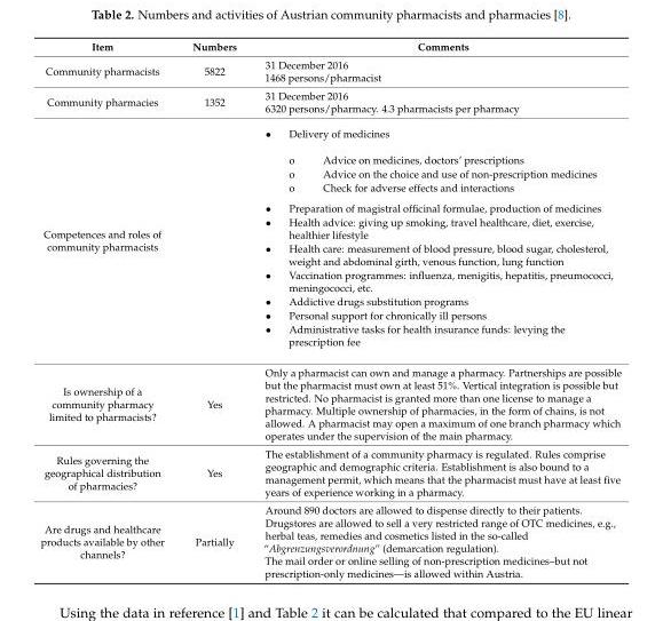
<table><thead><tr><td>Item</td><td>Numbers</td><td>Comments</td></tr></thead><tbody><tr><td>Community pharmacists</td><td>5822</td><td>31 December 2016 1468 persons/pharmacist</td></tr><tr><td>Community pharmacies</td><td>1352</td><td>31 December 2016 6320 persons/pharmacy. 4.3 pharmacists per pharmacy</td></tr><tr><td>Competences and roles of community pharmacists</td><td></td><td>• Delivery of medicines o Advice on medicines, doctors’ prescriptions o Advice on the choice and use of non-prescription medicines o Check for adverse effects and interactions • Preparation of magistral officinal formulae, production of medicines • Health advice: giving up smoking, travel healthcare, diet, exercise, healthier lifestyle • Health care: measurement of blood pressure, blood sugar, cholesterol, weight and abdominal girth, venous function, lung function • Vaccination programmes: influenza, menigitis, hepatitis, pneumococci, meningococci, etc. • Addictive drugs substitution programs • Personal support for chronically ill persons • Administrative tasks for health insurance funds: levying the prescription fee</td></tr><tr><td>Is ownership of a community pharmacy limited to pharmacists?</td><td>Yes</td><td>Only a pharmacist can own and manage a pharmacy. Partnerships are possible but the pharmacist must own at least 51%. Vertical integration is possible but restricted. No pharmacist is granted more than one license to manage a pharmacy. Multiple ownership of pharmacies, in the form of chains, is not allowed. A pharmacist may open a maximum of one branch pharmacy which operates under the supervision of the main pharmacy.</td></tr><tr><td>Rules governing the geographical distribution of pharmacies?</td><td>Yes</td><td>The establishment of a community pharmacy is regulated. Rules comprise geographic and demographic criteria. Establishment is also bound to a management permit, which means that the pharmacist must have at least five years of experience working in a pharmacy.</td></tr><tr><td>Are drugs and healthcare products available by other channels?</td><td>Partially</td><td>Around 890 doctors are allowed to dispense directly to their patients. Drugstores are allowed to sell a very restricted range of OTC medicines, e.g., herbal teas, remedies and cosmetics listed in the so-called “Abgrenzungsverordnung” (demarcation regulation). The mail order or online selling of non-prescription medicines–but not prescription-only medicines—is allowed within Austria.</td></tr></tbody></table>